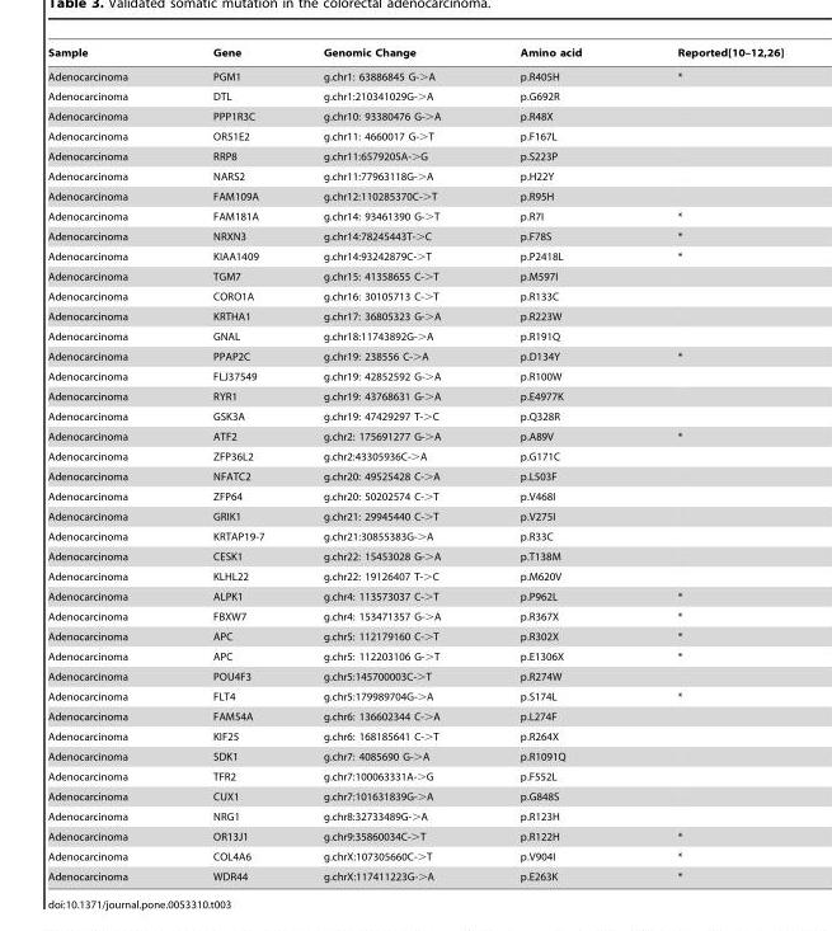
<table><thead><tr><td>Sample</td><td>Gene</td><td>Genomic Change</td><td>Amino acid</td><td>Reported[10–12,26]</td></tr></thead><tbody><tr><td>Adenocarcinoma</td><td>PGM1</td><td>g.chr1: 63886845 G-&gt;A</td><td>p.R405H</td><td>*</td></tr><tr><td>Adenocarcinoma</td><td>DTL</td><td>g.chr1:210341029G-&gt;A</td><td>p.G692R</td><td></td></tr><tr><td>Adenocarcinoma</td><td>PPP1R3C</td><td>g.chr10: 93380476 G-&gt;A</td><td>p.R48X</td><td></td></tr><tr><td>Adenocarcinoma</td><td>OR51E2</td><td>g.chr11: 4660017 G-&gt;T</td><td>p.F167L</td><td></td></tr><tr><td>Adenocarcinoma</td><td>RRP8</td><td>g.chr11:6579205A-&gt;G</td><td>p.S223P</td><td></td></tr><tr><td>Adenocarcinoma</td><td>NARS2</td><td>g.chr11:77963118G-&gt;A</td><td>p.H22Y</td><td></td></tr><tr><td>Adenocarcinoma</td><td>FAM109A</td><td>g.chr12:110285370C-&gt;T</td><td>p.R95H</td><td></td></tr><tr><td>Adenocarcinoma</td><td>FAM181A</td><td>g.chr14: 93461390 G-&gt;T</td><td>p.R7I</td><td>*</td></tr><tr><td>Adenocarcinoma</td><td>NRXN3</td><td>g.chr14:78245443T-&gt;C</td><td>p.F78S</td><td>*</td></tr><tr><td>Adenocarcinoma</td><td>KIAA1409</td><td>g.chr14:93242879C-&gt;T</td><td>p.P2418L</td><td>*</td></tr><tr><td>Adenocarcinoma</td><td>TGM7</td><td>g.chr15: 41358655 C-&gt;T</td><td>p.M597I</td><td></td></tr><tr><td>Adenocarcinoma</td><td>CORO1A</td><td>g.chr16: 30105713 C-&gt;T</td><td>p.R133C</td><td></td></tr><tr><td>Adenocarcinoma</td><td>KRTHA1</td><td>g.chr17: 36805323 G-&gt;A</td><td>p.R223W</td><td></td></tr><tr><td>Adenocarcinoma</td><td>GNAL</td><td>g.chr18:11743892G-&gt;A</td><td>p.R191Q</td><td></td></tr><tr><td>Adenocarcinoma</td><td>PPAP2C</td><td>g.chr19: 238556 C-&gt;A</td><td>p.D134Y</td><td>*</td></tr><tr><td>Adenocarcinoma</td><td>FLJ37549</td><td>g.chr19: 42852592 G-&gt;A</td><td>p.R100W</td><td></td></tr><tr><td>Adenocarcinoma</td><td>RYR1</td><td>g.chr19: 43768631 G-&gt;A</td><td>p.E4977K</td><td></td></tr><tr><td>Adenocarcinoma</td><td>GSK3A</td><td>g.chr19: 47429297 T-&gt;C</td><td>p.Q328R</td><td></td></tr><tr><td>Adenocarcinoma</td><td>ATF2</td><td>g.chr2: 175691277 G-&gt;A</td><td>p.A89V</td><td>*</td></tr><tr><td>Adenocarcinoma</td><td>ZFP36L2</td><td>g.chr2:43305936C-&gt;A</td><td>p.G171C</td><td></td></tr><tr><td>Adenocarcinoma</td><td>NFATC2</td><td>g.chr20: 49525428 C-&gt;A</td><td>p.L503F</td><td></td></tr><tr><td>Adenocarcinoma</td><td>ZFP64</td><td>g.chr20: 50202574 C-&gt;T</td><td>p.V468I</td><td></td></tr><tr><td>Adenocarcinoma</td><td>GRIK1</td><td>g.chr21: 29945440 C-&gt;T</td><td>p.V275I</td><td></td></tr><tr><td>Adenocarcinoma</td><td>KRTAP19-7</td><td>g.chr21:30855383G-&gt;A</td><td>p.R33C</td><td></td></tr><tr><td>Adenocarcinoma</td><td>CESK1</td><td>g.chr22: 15453028 G-&gt;A</td><td>p.T138M</td><td></td></tr><tr><td>Adenocarcinoma</td><td>KLHL22</td><td>g.chr22: 19126407 T-&gt;C</td><td>p.M620V</td><td></td></tr><tr><td>Adenocarcinoma</td><td>ALPK1</td><td>g.chr4: 113573037 C-&gt;T</td><td>p.P962L</td><td>*</td></tr><tr><td>Adenocarcinoma</td><td>FBXW7</td><td>g.chr4: 153471357 G-&gt;A</td><td>p.R367X</td><td>*</td></tr><tr><td>Adenocarcinoma</td><td>APC</td><td>g.chr5: 112179160 C-&gt;T</td><td>p.R302X</td><td>*</td></tr><tr><td>Adenocarcinoma</td><td>APC</td><td>g.chr5: 112203106 G-&gt;T</td><td>p.E1306X</td><td>*</td></tr><tr><td>Adenocarcinoma</td><td>POU4F3</td><td>g.chr5:145700003C-&gt;T</td><td>p.R274W</td><td></td></tr><tr><td>Adenocarcinoma</td><td>FLT4</td><td>g.chr5:179989704G-&gt;A</td><td>p.S174L</td><td>*</td></tr><tr><td>Adenocarcinoma</td><td>FAM54A</td><td>g.chr6: 136602344 C-&gt;A</td><td>p.L274F</td><td></td></tr><tr><td>Adenocarcinoma</td><td>KIF25</td><td>g.chr6: 168185641 C-&gt;T</td><td>p.R264X</td><td></td></tr><tr><td>Adenocarcinoma</td><td>SDK1</td><td>g.chr7: 4085690 G-&gt;A</td><td>p.R1091Q</td><td></td></tr><tr><td>Adenocarcinoma</td><td>TFR2</td><td>g.chr7:100063331A-&gt;G</td><td>p.F552L</td><td></td></tr><tr><td>Adenocarcinoma</td><td>CUX1</td><td>g.chr7:101631839G-&gt;A</td><td>p.G848S</td><td></td></tr><tr><td>Adenocarcinoma</td><td>NRG1</td><td>g.chr8:32733489G-&gt;A</td><td>p.R123H</td><td></td></tr><tr><td>Adenocarcinoma</td><td>OR13J1</td><td>g.chr9:35860034C-&gt;T</td><td>p.R122H</td><td>*</td></tr><tr><td>Adenocarcinoma</td><td>COL4A6</td><td>g.chrX:107305660C-&gt;T</td><td>p.V904I</td><td>*</td></tr><tr><td>Adenocarcinoma</td><td>WDR44</td><td>g.chrX:117411223G-&gt;A</td><td>p.E263K</td><td>*</td></tr></tbody></table>